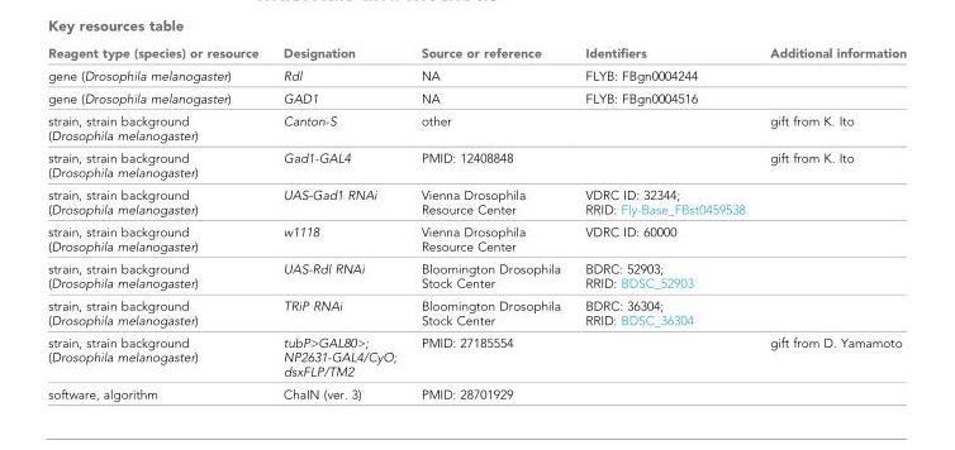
<table><thead><tr><td>Reagent type (species) or resource</td><td>Designation</td><td>Source or reference</td><td>Identifiers</td><td>Additional information</td></tr></thead><tbody><tr><td>gene (Drosophila melanogaster)</td><td>Rdl</td><td>NA</td><td>FLYB: FBgn0004244</td><td></td></tr><tr><td>gene (Drosophila melanogaster)</td><td>GAD1</td><td>NA</td><td>FLYB: FBgn0004516</td><td></td></tr><tr><td>strain, strain background (Drosophila melanogaster)</td><td>Canton-S</td><td>other</td><td></td><td>gift from K. Ito</td></tr><tr><td>strain, strain background (Drosophila melanogaster)</td><td>Gad1-GAL4</td><td>PMID: 12408848</td><td></td><td>gift from K. Ito</td></tr><tr><td>strain, strain background (Drosophila melanogaster)</td><td>UAS-Gad1 RNAi</td><td>Vienna Drosophila Resource Center</td><td>VDRC ID: 32344; RRID: Fly-Base_FBst0459538</td><td></td></tr><tr><td>strain, strain background (Drosophila melanogaster)</td><td>w1118</td><td>Vienna Drosophila Resource Center</td><td>VDRC ID: 60000</td><td></td></tr><tr><td>strain, strain background (Drosophila melanogaster)</td><td>UAS-Rdl RNAi</td><td>Bloomington Drosophila Stock Center</td><td>BDRC: 52903; RRID: BDSC_52903</td><td></td></tr><tr><td>strain, strain background (Drosophila melanogaster)</td><td>TRiP RNAi</td><td>Bloomington Drosophila Stock Center</td><td>BDRC: 36304; RRID: BDSC_36304</td><td></td></tr><tr><td>strain, strain background (Drosophila melanogaster)</td><td>tubP&gt;GAL80&gt;; NP2631-GAL4/CyO; dsxFLP/TM2</td><td>PMID: 27185554</td><td></td><td>gift from D. Yamamoto</td></tr><tr><td>software, algorithm</td><td>ChaIN (ver. 3)</td><td>PMID: 28701929</td><td></td><td></td></tr></tbody></table>